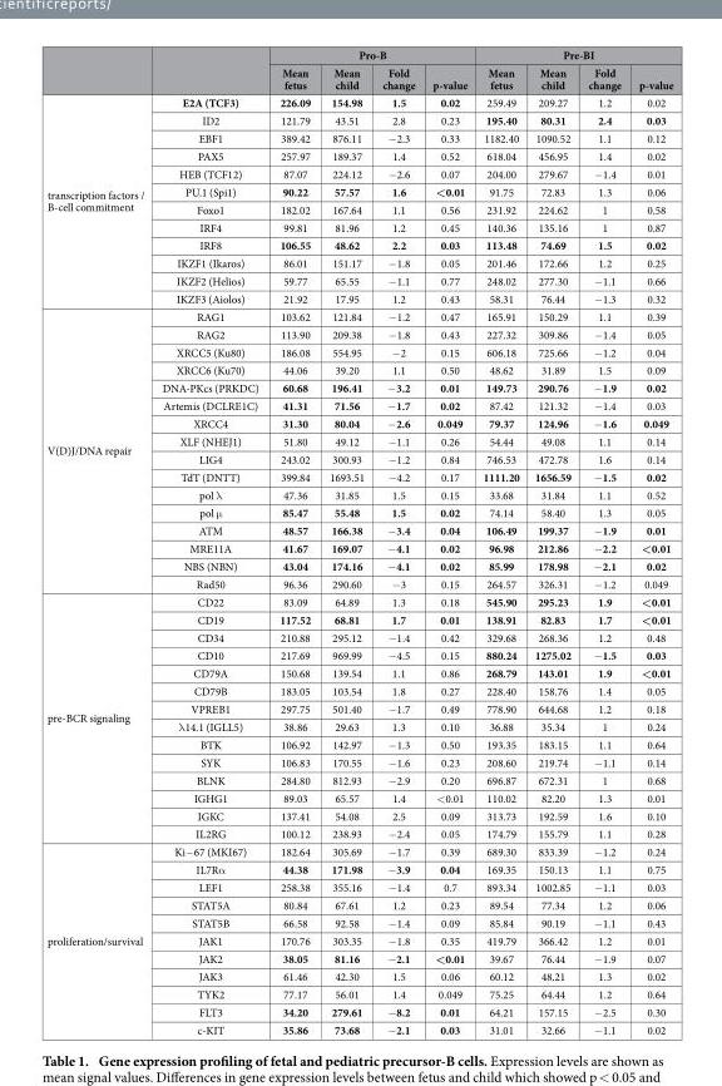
<table><thead><tr><td rowspan="2"></td><td rowspan="2"></td><td colspan="4">Pro-B</td><td colspan="4">Pre-BI</td></tr><tr><td>Mean fetus</td><td>Mean child</td><td>Fold change</td><td>p-value</td><td>Mean fetus</td><td>Mean child</td><td>Fold change</td><td>p-value</td></tr></thead><tbody><tr><td rowspan="12">transcription factors / B-cell commitment</td><td>E2A (TCF3)</td><td>226.09</td><td>154.98</td><td>1.5</td><td>0.02</td><td>259.49</td><td>209.27</td><td>1.2</td><td>0.02</td></tr><tr><td>ID2</td><td>121.79</td><td>43.51</td><td>2.8</td><td>0.23</td><td>195.40</td><td>80.31</td><td>2.4</td><td>0.03</td></tr><tr><td>EBF1</td><td>389.42</td><td>876.11</td><td>− 2.3</td><td>0.33</td><td>1182.40</td><td>1090.52</td><td>1.1</td><td>0.12</td></tr><tr><td>PAX5</td><td>257.97</td><td>189.37</td><td>1.4</td><td>0.52</td><td>618.04</td><td>456.95</td><td>1.4</td><td>0.02</td></tr><tr><td>HEB (TCF12)</td><td>87.07</td><td>224.12</td><td>− 2.6</td><td>0.07</td><td>204.00</td><td>279.67</td><td>− 1.4</td><td>0.01</td></tr><tr><td>PU.1 (Spi1)</td><td>90.22</td><td>57.57</td><td>1.6</td><td>&lt;0.01</td><td>91.75</td><td>72.83</td><td>1.3</td><td>0.06</td></tr><tr><td>Foxo1</td><td>182.02</td><td>167.64</td><td>1.1</td><td>0.56</td><td>231.92</td><td>224.62</td><td>1</td><td>0.58</td></tr><tr><td>IRF4</td><td>99.81</td><td>81.96</td><td>1.2</td><td>0.45</td><td>140.36</td><td>135.16</td><td>1</td><td>0.87</td></tr><tr><td>IRF8</td><td>106.55</td><td>48.62</td><td>2.2</td><td>0.03</td><td>113.48</td><td>74.69</td><td>1.5</td><td>0.02</td></tr><tr><td>IKZF1 (Ikaros)</td><td>86.01</td><td>151.17</td><td>− 1.8</td><td>0.05</td><td>201.46</td><td>172.66</td><td>1.2</td><td>0.25</td></tr><tr><td>IKZF2 (Helios)</td><td>59.77</td><td>65.55</td><td>− 1.1</td><td>0.77</td><td>248.02</td><td>277.30</td><td>− 1.1</td><td>0.66</td></tr><tr><td>IKZF3 (Aiolos)</td><td>21.92</td><td>17.95</td><td>1.2</td><td>0.43</td><td>58.31</td><td>76.44</td><td>− 1.3</td><td>0.32</td></tr><tr><td rowspan="16">V(D)J/DNA repair</td><td>RAG1</td><td>103.62</td><td>121.84</td><td>− 1.2</td><td>0.47</td><td>165.91</td><td>150.29</td><td>1.1</td><td>0.39</td></tr><tr><td>RAG2</td><td>113.90</td><td>209.38</td><td>− 1.8</td><td>0.43</td><td>227.32</td><td>309.86</td><td>− 1.4</td><td>0.05</td></tr><tr><td>XRCC5 (Ku80)</td><td>186.08</td><td>554.95</td><td>− 2</td><td>0.15</td><td>606.18</td><td>725.66</td><td>− 1.2</td><td>0.04</td></tr><tr><td>XRCC6 (Ku70)</td><td>44.06</td><td>39.20</td><td>1.1</td><td>0.50</td><td>48.62</td><td>31.89</td><td>1.5</td><td>0.09</td></tr><tr><td>DNA-PKcs (PRKDC)</td><td>60.68</td><td>196.41</td><td>− 3.2</td><td>0.01</td><td>149.73</td><td>290.76</td><td>− 1.9</td><td>0.02</td></tr><tr><td>Artemis (DCLRE1C)</td><td>41.31</td><td>71.56</td><td>− 1.7</td><td>0.02</td><td>87.42</td><td>121.32</td><td>− 1.4</td><td>0.03</td></tr><tr><td>XRCC4</td><td>31.30</td><td>80.04</td><td>− 2.6</td><td>0.049</td><td>79.37</td><td>124.96</td><td>− 1.6</td><td>0.049</td></tr><tr><td>XLF (NHEJ1)</td><td>51.80</td><td>49.12</td><td>− 1.1</td><td>0.26</td><td>54.44</td><td>49.08</td><td>1.1</td><td>0.14</td></tr><tr><td>LIG4</td><td>243.02</td><td>300.93</td><td>− 1.2</td><td>0.84</td><td>746.53</td><td>472.78</td><td>1.6</td><td>0.14</td></tr><tr><td>TdT (DNTT)</td><td>399.84</td><td>1693.51</td><td>− 4.2</td><td>0.17</td><td>1111.20</td><td>1656.59</td><td>− 1.5</td><td>0.02</td></tr><tr><td>pol λ</td><td>47.36</td><td>31.85</td><td>1.5</td><td>0.15</td><td>33.68</td><td>31.84</td><td>1.1</td><td>0.52</td></tr><tr><td>pol μ</td><td>85.47</td><td>55.48</td><td>1.5</td><td>0.02</td><td>74.14</td><td>58.40</td><td>1.3</td><td>0.05</td></tr><tr><td>ATM</td><td>48.57</td><td>166.38</td><td>− 3.4</td><td>0.04</td><td>106.49</td><td>199.37</td><td>− 1.9</td><td>0.01</td></tr><tr><td>MRE11A</td><td>41.67</td><td>169.07</td><td>− 4.1</td><td>0.02</td><td>96.98</td><td>212.86</td><td>− 2.2</td><td>&lt;0.01</td></tr><tr><td>NBS (NBN)</td><td>43.04</td><td>174.16</td><td>− 4.1</td><td>0.02</td><td>85.99</td><td>178.98</td><td>− 2.1</td><td>0.02</td></tr><tr><td>Rad50</td><td>96.36</td><td>290.60</td><td>− 3</td><td>0.15</td><td>264.57</td><td>326.31</td><td>− 1.2</td><td>0.049</td></tr><tr><td rowspan="14">pre-BCR signaling</td><td>CD22</td><td>83.09</td><td>64.89</td><td>1.3</td><td>0.18</td><td>545.90</td><td>295.23</td><td>1.9</td><td>&lt;0.01</td></tr><tr><td>CD19</td><td>117.52</td><td>68.81</td><td>1.7</td><td>0.01</td><td>138.91</td><td>82.83</td><td>1.7</td><td>&lt;0.01</td></tr><tr><td>CD34</td><td>210.88</td><td>295.12</td><td>− 1.4</td><td>0.42</td><td>329.68</td><td>268.36</td><td>1.2</td><td>0.48</td></tr><tr><td>CD10</td><td>217.69</td><td>969.99</td><td>− 4.5</td><td>0.15</td><td>880.24</td><td>1275.02</td><td>− 1.5</td><td>0.03</td></tr><tr><td>CD79A</td><td>150.68</td><td>139.54</td><td>1.1</td><td>0.86</td><td>268.79</td><td>143.01</td><td>1.9</td><td>&lt;0.01</td></tr><tr><td>CD79B</td><td>183.05</td><td>103.54</td><td>1.8</td><td>0.27</td><td>228.40</td><td>158.76</td><td>1.4</td><td>0.05</td></tr><tr><td>VPREB1</td><td>297.75</td><td>501.40</td><td>− 1.7</td><td>0.49</td><td>778.90</td><td>644.68</td><td>1.2</td><td>0.18</td></tr><tr><td>λ 14.1 (IGLL5)</td><td>38.86</td><td>29.63</td><td>1.3</td><td>0.10</td><td>36.88</td><td>35.34</td><td>1</td><td>0.24</td></tr><tr><td>BTK</td><td>106.92</td><td>142.97</td><td>− 1.3</td><td>0.50</td><td>193.35</td><td>183.15</td><td>1.1</td><td>0.64</td></tr><tr><td>SYK</td><td>106.83</td><td>170.55</td><td>− 1.6</td><td>0.23</td><td>208.60</td><td>219.74</td><td>− 1.1</td><td>0.14</td></tr><tr><td>BLNK</td><td>284.80</td><td>812.93</td><td>− 2.9</td><td>0.20</td><td>696.87</td><td>672.31</td><td>1</td><td>0.68</td></tr><tr><td>IGHG1</td><td>89.03</td><td>65.57</td><td>1.4</td><td>&lt; 0.01</td><td>110.02</td><td>82.20</td><td>1.3</td><td>0.01</td></tr><tr><td>IGKC</td><td>137.41</td><td>54.08</td><td>2.5</td><td>0.09</td><td>313.73</td><td>192.59</td><td>1.6</td><td>0.10</td></tr><tr><td>IL2RG</td><td>100.12</td><td>238.93</td><td>− 2.4</td><td>0.05</td><td>174.79</td><td>155.79</td><td>1.1</td><td>0.28</td></tr><tr><td rowspan="11">proliferation/survival</td><td>Ki− 67 (MKI67)</td><td>182.64</td><td>305.69</td><td>− 1.7</td><td>0.39</td><td>689.30</td><td>833.39</td><td>− 1.2</td><td>0.24</td></tr><tr><td>IL7Rα</td><td>44.38</td><td>171.98</td><td>− 3.9</td><td>0.04</td><td>169.35</td><td>150.13</td><td>1.1</td><td>0.75</td></tr><tr><td>LEF1</td><td>258.38</td><td>355.16</td><td>− 1.4</td><td>0.7</td><td>893.34</td><td>1002.85</td><td>− 1.1</td><td>0.03</td></tr><tr><td>STAT5A</td><td>80.84</td><td>67.61</td><td>1.2</td><td>0.23</td><td>89.54</td><td>77.34</td><td>1.2</td><td>0.06</td></tr><tr><td>STAT5B</td><td>66.58</td><td>92.58</td><td>− 1.4</td><td>0.09</td><td>85.84</td><td>90.19</td><td>− 1.1</td><td>0.43</td></tr><tr><td>JAK1</td><td>170.76</td><td>303.35</td><td>− 1.8</td><td>0.35</td><td>419.79</td><td>366.42</td><td>1.2</td><td>0.01</td></tr><tr><td>JAK2</td><td>38.05</td><td>81.16</td><td>− 2.1</td><td>&lt;0.01</td><td>39.67</td><td>76.44</td><td>− 1.9</td><td>0.07</td></tr><tr><td>JAK3</td><td>61.46</td><td>42.30</td><td>1.5</td><td>0.06</td><td>60.12</td><td>48.21</td><td>1.3</td><td>0.02</td></tr><tr><td>TYK2</td><td>77.17</td><td>56.01</td><td>1.4</td><td>0.049</td><td>75.25</td><td>64.44</td><td>1.2</td><td>0.64</td></tr><tr><td>FLT3</td><td>34.20</td><td>279.61</td><td>− 8.2</td><td>0.01</td><td>64.21</td><td>157.15</td><td>− 2.5</td><td>0.30</td></tr><tr><td>c-KIT</td><td>35.86</td><td>73.68</td><td>− 2.1</td><td>0.03</td><td>31.01</td><td>32.66</td><td>− 1.1</td><td>0.02</td></tr></tbody></table>